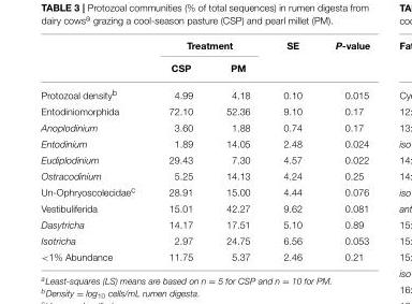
<table><thead><tr><td rowspan="2"></td><td colspan="2">Treatment</td><td rowspan="2">SE</td><td rowspan="2">P-value</td></tr><tr><td>CSP</td><td>PM</td></tr></thead><tbody><tr><td>Protozoal density<sup>b</sup></td><td>4.99</td><td>4.18</td><td>0.10</td><td>0.015</td></tr><tr><td>Entodiniomorphida</td><td>72.10</td><td>52.36</td><td>9.10</td><td>0.17</td></tr><tr><td>Anoplodinium</td><td>3.60</td><td>1.88</td><td>0.74</td><td>0.17</td></tr><tr><td>Entodinium</td><td>1.89</td><td>14.05</td><td>2.48</td><td>0.024</td></tr><tr><td>Eudiplodinium</td><td>29.43</td><td>7.30</td><td>4.57</td><td>0.022</td></tr><tr><td>Ostracodinium</td><td>5.25</td><td>14.13</td><td>4.24</td><td>0.25</td></tr><tr><td>Un-Ophryoscolecidae<sup>c</sup></td><td>28.91</td><td>15.00</td><td>4.44</td><td>0.076</td></tr><tr><td>Vestibuliferida</td><td>15.01</td><td>42.27</td><td>9.62</td><td>0.081</td></tr><tr><td>Dasytricha</td><td>14.17</td><td>17.51</td><td>5.10</td><td>0.89</td></tr><tr><td>Isotricha</td><td>2.97</td><td>24.75</td><td>6.56</td><td>0.053</td></tr><tr><td>&lt;1% Abundance</td><td>11.75</td><td>5.37</td><td>2.46</td><td>0.21</td></tr></tbody></table>